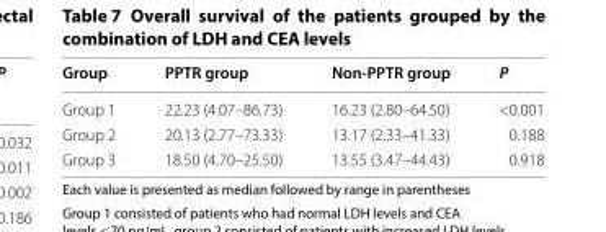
<table><thead><tr><td>Group</td><td>PPTR group</td><td>Non‑PPTR group</td><td>P</td></tr></thead><tbody><tr><td>Group 1</td><td>22.23 (4.07–86.73)</td><td>16.23 (2.80–64.50)</td><td>&lt;0.001</td></tr><tr><td>Group 2</td><td>20.13 (2.77–73.33)</td><td>13.17 (2.33–41.33)</td><td>0.188</td></tr><tr><td>Group 3</td><td>18.50 (4.70–25.50)</td><td>13.55 (3.47–44.43)</td><td>0.918</td></tr></tbody></table>